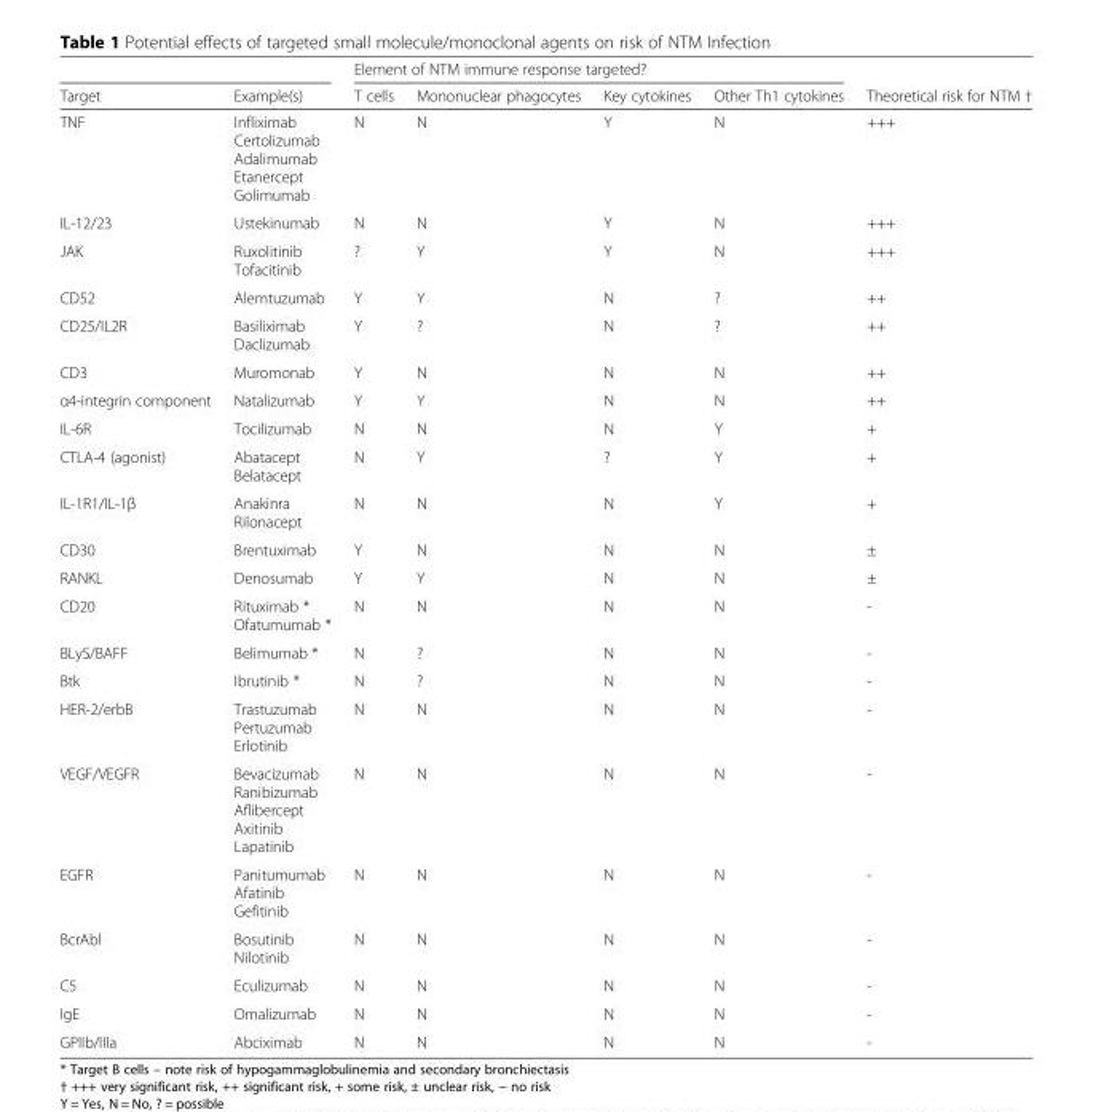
<table><thead><tr><td rowspan="2">Target</td><td rowspan="2">Example(s)</td><td colspan="4">Element of NTM immune response targeted?</td><td rowspan="2">Theoretical risk for NTM †</td></tr><tr><td>T cells</td><td>Mononuclear phagocytes</td><td>Key cytokines</td><td>Other Th1 cytokines</td></tr></thead><tbody><tr><td>TNF</td><td>Infliximab Certolizumab Adalimumab Etanercept Golimumab</td><td>N</td><td>N</td><td>Y</td><td>N</td><td>+++</td></tr><tr><td>IL-12/23</td><td>Ustekinumab</td><td>N</td><td>N</td><td>Y</td><td>N</td><td>+++</td></tr><tr><td>JAK</td><td>Ruxolitinib Tofacitinib</td><td>?</td><td>Y</td><td>Y</td><td>N</td><td>+++</td></tr><tr><td>CD52</td><td>Alemtuzumab</td><td>Y</td><td>Y</td><td>N</td><td>?</td><td>++</td></tr><tr><td>CD25/IL2R</td><td>Basiliximab Daclizumab</td><td>Y</td><td>?</td><td>N</td><td>?</td><td>++</td></tr><tr><td>CD3</td><td>Muromonab</td><td>Y</td><td>N</td><td>N</td><td>N</td><td>++</td></tr><tr><td>α4-integrin component</td><td>Natalizumab</td><td>Y</td><td>Y</td><td>N</td><td>N</td><td>++</td></tr><tr><td>IL-6R</td><td>Tocilizumab</td><td>N</td><td>N</td><td>N</td><td>Y</td><td>+</td></tr><tr><td>CTLA-4 (agonist)</td><td>Abatacept Belatacept</td><td>N</td><td>Y</td><td>?</td><td>Y</td><td>+</td></tr><tr><td>IL-1R1/IL-1β</td><td>Anakinra Rilonacept</td><td>N</td><td>N</td><td>N</td><td>Y</td><td>+</td></tr><tr><td>CD30</td><td>Brentuximab</td><td>Y</td><td>N</td><td>N</td><td>N</td><td>±</td></tr><tr><td>RANKL</td><td>Denosumab</td><td>Y</td><td>Y</td><td>N</td><td>N</td><td>±</td></tr><tr><td>CD20</td><td>Rituximab * Ofatumumab *</td><td>N</td><td>N</td><td>N</td><td>N</td><td>-</td></tr><tr><td>BLyS/BAFF</td><td>Belimumab *</td><td>N</td><td>?</td><td>N</td><td>N</td><td>-</td></tr><tr><td>Btk</td><td>Ibrutinib *</td><td>N</td><td>?</td><td>N</td><td>N</td><td>-</td></tr><tr><td>HER-2/erbB</td><td>Trastuzumab Pertuzumab Erlotinib</td><td>N</td><td>N</td><td>N</td><td>N</td><td>-</td></tr><tr><td>VEGF/VEGFR</td><td>Bevacizumab Ranibizumab Aflibercept Axitinib Lapatinib</td><td>N</td><td>N</td><td>N</td><td>N</td><td>-</td></tr><tr><td>EGFR</td><td>Panitumumab Afatinib Gefitinib</td><td>N</td><td>N</td><td>N</td><td>N</td><td>-</td></tr><tr><td>BcrAbl</td><td>Bosutinib Nilotinib</td><td>N</td><td>N</td><td>N</td><td>N</td><td>-</td></tr><tr><td>C5</td><td>Eculizumab</td><td>N</td><td>N</td><td>N</td><td>N</td><td>-</td></tr><tr><td>IgE</td><td>Omalizumab</td><td>N</td><td>N</td><td>N</td><td>N</td><td>-</td></tr><tr><td>GPIIb/IIIa</td><td>Abciximab</td><td>N</td><td>N</td><td>N</td><td>N</td><td>-</td></tr></tbody></table>